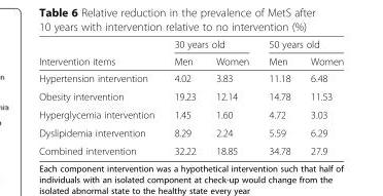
<table><thead><tr><td rowspan="2">Intervention items</td><td colspan="2">30 years old</td><td colspan="2">50 years old</td></tr><tr><td>Men</td><td>Women</td><td>Men</td><td>Women</td></tr></thead><tbody><tr><td>Hypertension intervention</td><td>4.02</td><td>3.83</td><td>11.18</td><td>6.48</td></tr><tr><td>Obesity intervention</td><td>19.23</td><td>12.14</td><td>14.78</td><td>11.53</td></tr><tr><td>Hyperglycemia intervention</td><td>1.45</td><td>1.60</td><td>4.72</td><td>3.03</td></tr><tr><td>Dyslipidemia intervention</td><td>8.29</td><td>2.24</td><td>5.59</td><td>6.29</td></tr><tr><td>Combined intervention</td><td>32.22</td><td>18.85</td><td>34.78</td><td>27.9</td></tr></tbody></table>